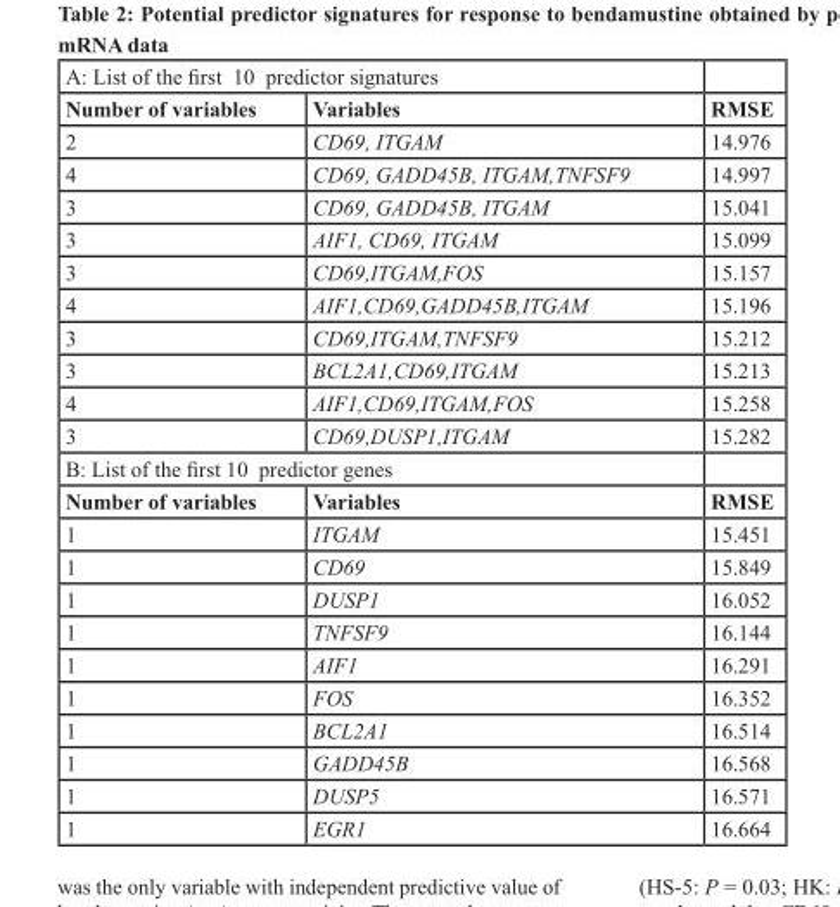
<table><thead><tr><td colspan="2">A: List of the first 10 predictor signatures</td><td rowspan="2">RMSE</td></tr><tr><td>Number of variables</td><td>Variables</td></tr></thead><tbody><tr><td>2</td><td>CD69, ITGAM</td><td>14.976</td></tr><tr><td>4</td><td>CD69, GADD45B, ITGAM,TNFSF9</td><td>14.997</td></tr><tr><td>3</td><td>CD69, GADD45B, ITGAM</td><td>15.041</td></tr><tr><td>3</td><td>AIF1, CD69, ITGAM</td><td>15.099</td></tr><tr><td>3</td><td>CD69,ITGAM,FOS</td><td>15.157</td></tr><tr><td>4</td><td>AIF1,CD69,GADD45B,ITGAM</td><td>15.196</td></tr><tr><td>3</td><td>CD69,ITGAM,TNFSF9</td><td>15.212</td></tr><tr><td>3</td><td>BCL2A1,CD69,ITGAM</td><td>15.213</td></tr><tr><td>4</td><td>AIF1,CD69,ITGAM,FOS</td><td>15.258</td></tr><tr><td>3</td><td>CD69,DUSP1,ITGAM</td><td>15.282</td></tr><tr><td colspan="3">B: List of the first 10 predictor genes</td></tr><tr><td>Number of variables</td><td>Variables</td><td>RMSE</td></tr><tr><td>1</td><td>ITGAM</td><td>15.451</td></tr><tr><td>1</td><td>CD69</td><td>15.849</td></tr><tr><td>1</td><td>DUSP1</td><td>16.052</td></tr><tr><td>1</td><td>TNFSF9</td><td>16.144</td></tr><tr><td>1</td><td>AIF1</td><td>16.291</td></tr><tr><td>1</td><td>FOS</td><td>16.352</td></tr><tr><td>1</td><td>BCL2A1</td><td>16.514</td></tr><tr><td>1</td><td>GADD45B</td><td>16.568</td></tr><tr><td>1</td><td>DUSP5</td><td>16.571</td></tr><tr><td>1</td><td>EGR1</td><td>16.664</td></tr></tbody></table>